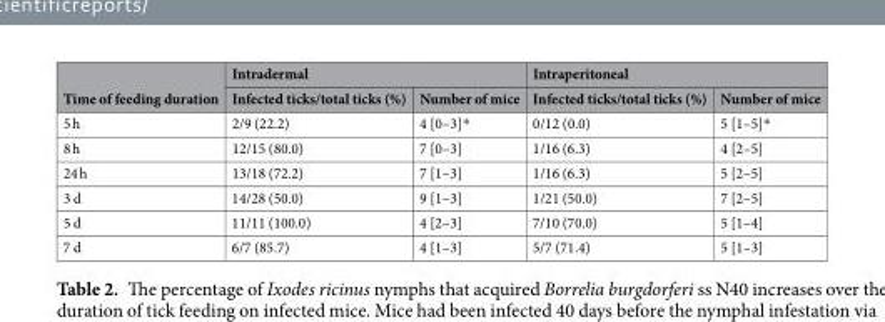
<table><thead><tr><td rowspan="2">Time of feeding duration</td><td colspan="2">Intradermal</td><td colspan="2">Intraperitoneal</td></tr><tr><td>Infected ticks/total ticks (%)</td><td>Number of mice</td><td>Infected ticks/total ticks (%)</td><td>Number of mice</td></tr></thead><tbody><tr><td>5 h</td><td>2/9 (22.2)</td><td>4 [0–3]*</td><td>0/12 (0.0)</td><td>5 [1–5]*</td></tr><tr><td>8 h</td><td>12/15 (80.0)</td><td>7 [0–3]</td><td>1/16 (6.3)</td><td>4 [2–5]</td></tr><tr><td>24 h</td><td>13/18 (72.2)</td><td>7 [1–3]</td><td>1/16 (6.3)</td><td>5 [2–5]</td></tr><tr><td>3 d</td><td>14/28 (50.0)</td><td>9 [1–3]</td><td>1/21 (50.0)</td><td>7 [2–5]</td></tr><tr><td>5 d</td><td>11/11 (100.0)</td><td>4 [2–3]</td><td>7/10 (70.0)</td><td>5 [1–4]</td></tr><tr><td>7 d</td><td>6/7 (85.7)</td><td>4 [1–3]</td><td>5/7 (71.4)</td><td>5 [1–3]</td></tr></tbody></table>